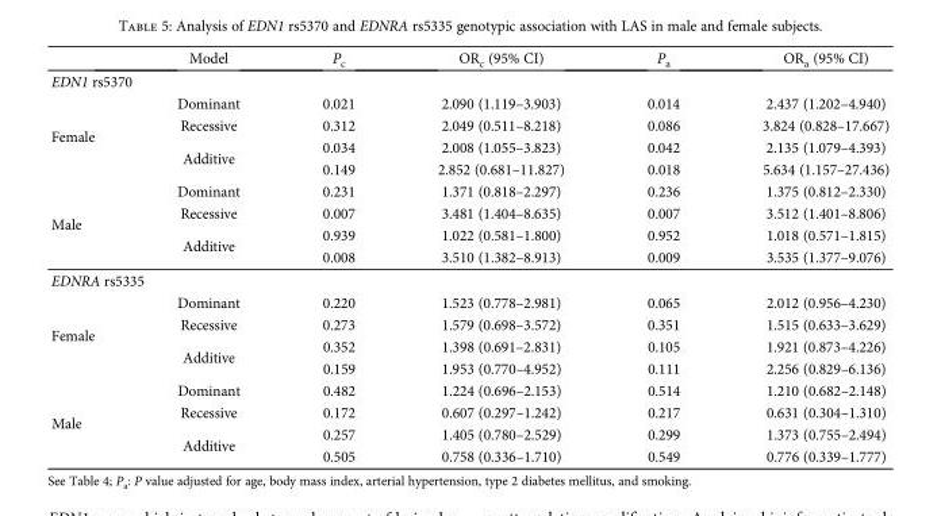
<table><thead><tr><td></td><td>Model</td><td>P<sub>c</sub></td><td>OR<sub>c</sub> (95% CI)</td><td>P<sub>a</sub></td><td>OR<sub>a</sub> (95% CI)</td></tr></thead><tbody><tr><td colspan="6">EDN1 rs5370</td></tr><tr><td rowspan="4">Female</td><td>Dominant</td><td>0.021</td><td>2.090 (1.119–3.903)</td><td>0.014</td><td>2.437 (1.202–4.940)</td></tr><tr><td>Recessive</td><td>0.312</td><td>2.049 (0.511–8.218)</td><td>0.086</td><td>3.824 (0.828–17.667)</td></tr><tr><td rowspan="2">Additive</td><td>0.034</td><td>2.008 (1.055–3.823)</td><td>0.042</td><td>2.135 (1.079–4.393)</td></tr><tr><td>0.149</td><td>2.852 (0.681–11.827)</td><td>0.018</td><td>5.634 (1.157–27.436)</td></tr><tr><td rowspan="4">Male</td><td>Dominant</td><td>0.231</td><td>1.371 (0.818–2.297)</td><td>0.236</td><td>1.375 (0.812–2.330)</td></tr><tr><td>Recessive</td><td>0.007</td><td>3.481 (1.404–8.635)</td><td>0.007</td><td>3.512 (1.401–8.806)</td></tr><tr><td rowspan="2">Additive</td><td>0.939</td><td>1.022 (0.581–1.800)</td><td>0.952</td><td>1.018 (0.571–1.815)</td></tr><tr><td>0.008</td><td>3.510 (1.382–8.913)</td><td>0.009</td><td>3.535 (1.377–9.076)</td></tr><tr><td colspan="6">EDNRA rs5335</td></tr><tr><td rowspan="4">Female</td><td>Dominant</td><td>0.220</td><td>1.523 (0.778–2.981)</td><td>0.065</td><td>2.012 (0.956–4.230)</td></tr><tr><td>Recessive</td><td>0.273</td><td>1.579 (0.698–3.572)</td><td>0.351</td><td>1.515 (0.633–3.629)</td></tr><tr><td rowspan="2">Additive</td><td>0.352</td><td>1.398 (0.691–2.831)</td><td>0.105</td><td>1.921 (0.873–4.226)</td></tr><tr><td>0.159</td><td>1.953 (0.770–4.952)</td><td>0.111</td><td>2.256 (0.829–6.136)</td></tr><tr><td rowspan="4">Male</td><td>Dominant</td><td>0.482</td><td>1.224 (0.696–2.153)</td><td>0.514</td><td>1.210 (0.682–2.148)</td></tr><tr><td>Recessive</td><td>0.172</td><td>0.607 (0.297–1.242)</td><td>0.217</td><td>0.631 (0.304–1.310)</td></tr><tr><td rowspan="2">Additive</td><td>0.257</td><td>1.405 (0.780–2.529)</td><td>0.299</td><td>1.373 (0.755–2.494)</td></tr><tr><td>0.505</td><td>0.758 (0.336–1.710)</td><td>0.549</td><td>0.776 (0.339–1.777)</td></tr></tbody></table>